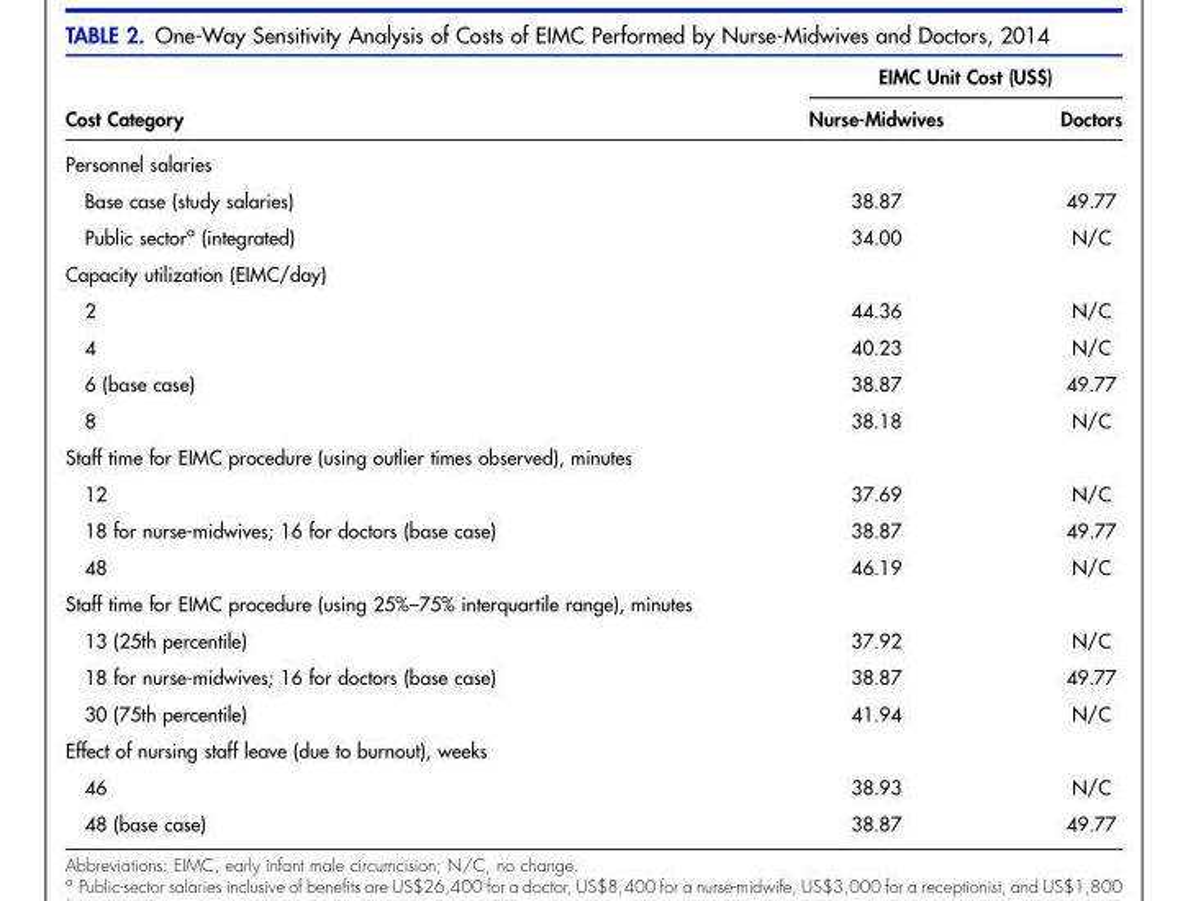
<table><thead><tr><td rowspan="2">Cost Category</td><td colspan="2">EIMC Unit Cost (US$)</td></tr><tr><td>Nurse-Midwives</td><td>Doctors</td></tr></thead><tbody><tr><td colspan="3">Personnel salaries</td></tr><tr><td>Base case (study salaries)</td><td>38.87</td><td>49.77</td></tr><tr><td>Public sector<sup>a</sup> (integrated)</td><td>34.00</td><td>N/C</td></tr><tr><td colspan="3">Capacity utilization (EIMC/day)</td></tr><tr><td>2</td><td>44.36</td><td>N/C</td></tr><tr><td>4</td><td>40.23</td><td>N/C</td></tr><tr><td>6 (base case)</td><td>38.87</td><td>49.77</td></tr><tr><td>8</td><td>38.18</td><td>N/C</td></tr><tr><td colspan="3">Staff time for EIMC procedure (using outlier times observed), minutes</td></tr><tr><td>12</td><td>37.69</td><td>N/C</td></tr><tr><td>18 for nurse-midwives; 16 for doctors (base case)</td><td>38.87</td><td>49.77</td></tr><tr><td>48</td><td>46.19</td><td>N/C</td></tr><tr><td colspan="3">Staff time for EIMC procedure (using 25%–75% interquartile range), minutes</td></tr><tr><td>13 (25th percentile)</td><td>37.92</td><td>N/C</td></tr><tr><td>18 for nurse-midwives; 16 for doctors (base case)</td><td>38.87</td><td>49.77</td></tr><tr><td>30 (75th percentile)</td><td>41.94</td><td>N/C</td></tr><tr><td colspan="3">Effect of nursing staff leave (due to burnout), weeks</td></tr><tr><td>46</td><td>38.93</td><td>N/C</td></tr><tr><td>48 (base case)</td><td>38.87</td><td>49.77</td></tr></tbody></table>